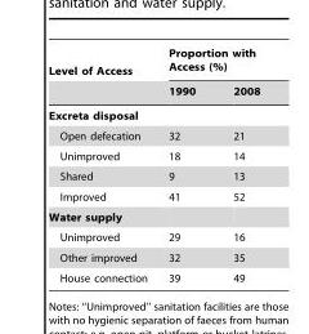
<table><thead><tr><td rowspan="2">Level of Access</td><td colspan="2">Proportion with Access (%)</td></tr><tr><td>1990</td><td>2008</td></tr></thead><tbody><tr><td colspan="3">Excreta disposal</td></tr><tr><td>Open defecation</td><td>32</td><td>21</td></tr><tr><td>Unimproved</td><td>18</td><td>14</td></tr><tr><td>Shared</td><td>9</td><td>13</td></tr><tr><td>Improved</td><td>41</td><td>52</td></tr><tr><td colspan="3">Water supply</td></tr><tr><td>Unimproved</td><td>29</td><td>16</td></tr><tr><td>Other improved</td><td>32</td><td>35</td></tr><tr><td>House connection</td><td>39</td><td>49</td></tr></tbody></table>